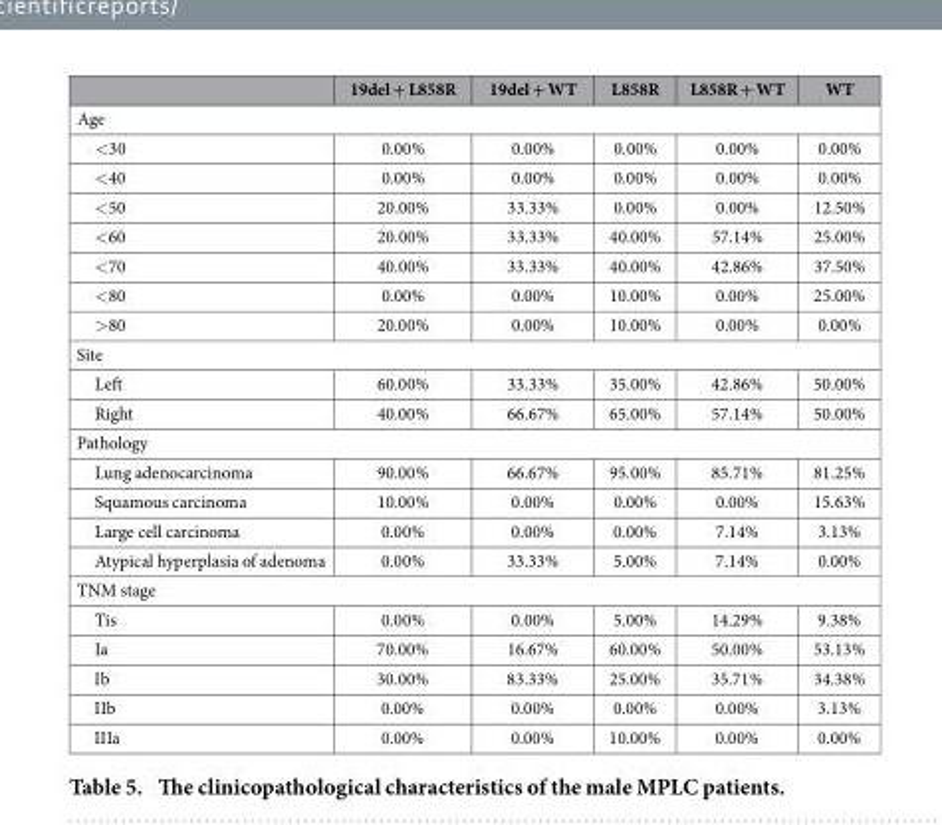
<table><thead><tr><td></td><td>19del + L858R</td><td>19del + WT</td><td>L858R</td><td>L858R + WT</td><td>WT</td></tr></thead><tbody><tr><td colspan="6">Age</td></tr><tr><td>&lt; 30</td><td>0.00%</td><td>0.00%</td><td>0.00%</td><td>0.00%</td><td>0.00%</td></tr><tr><td>&lt; 40</td><td>0.00%</td><td>0.00%</td><td>0.00%</td><td>0.00%</td><td>0.00%</td></tr><tr><td>&lt; 50</td><td>20.00%</td><td>33.33%</td><td>0.00%</td><td>0.00%</td><td>12.50%</td></tr><tr><td>&lt; 60</td><td>20.00%</td><td>33.33%</td><td>40.00%</td><td>57.14%</td><td>25.00%</td></tr><tr><td>&lt; 70</td><td>40.00%</td><td>33.33%</td><td>40.00%</td><td>42.86%</td><td>37.50%</td></tr><tr><td>&lt; 80</td><td>0.00%</td><td>0.00%</td><td>10.00%</td><td>0.00%</td><td>25.00%</td></tr><tr><td>&gt; 80</td><td>20.00%</td><td>0.00%</td><td>10.00%</td><td>0.00%</td><td>0.00%</td></tr><tr><td colspan="6">Site</td></tr><tr><td>Left</td><td>60.00%</td><td>33.33%</td><td>35.00%</td><td>42.86%</td><td>50.00%</td></tr><tr><td>Right</td><td>40.00%</td><td>66.67%</td><td>65.00%</td><td>57.14%</td><td>50.00%</td></tr><tr><td colspan="6">Pathology</td></tr><tr><td>Lung adenocarcinoma</td><td>90.00%</td><td>66.67%</td><td>95.00%</td><td>85.71%</td><td>81.25%</td></tr><tr><td>Squamous carcinoma</td><td>10.00%</td><td>0.00%</td><td>0.00%</td><td>0.00%</td><td>15.63%</td></tr><tr><td>Large cell carcinoma</td><td>0.00%</td><td>0.00%</td><td>0.00%</td><td>7.14%</td><td>3.13%</td></tr><tr><td>Atypical hyperplasia of adenoma</td><td>0.00%</td><td>33.33%</td><td>5.00%</td><td>7.14%</td><td>0.00%</td></tr><tr><td colspan="6">TNM stage</td></tr><tr><td>Tis</td><td>0.00%</td><td>0.00%</td><td>5.00%</td><td>14.29%</td><td>9.38%</td></tr><tr><td>Ia</td><td>70.00%</td><td>16.67%</td><td>60.00%</td><td>50.00%</td><td>53.13%</td></tr><tr><td>Ib</td><td>30.00%</td><td>83.33%</td><td>25.00%</td><td>35.71%</td><td>34.38%</td></tr><tr><td>IIb</td><td>0.00%</td><td>0.00%</td><td>0.00%</td><td>0.00%</td><td>3.13%</td></tr><tr><td>IIIa</td><td>0.00%</td><td>0.00%</td><td>10.00%</td><td>0.00%</td><td>0.00%</td></tr></tbody></table>